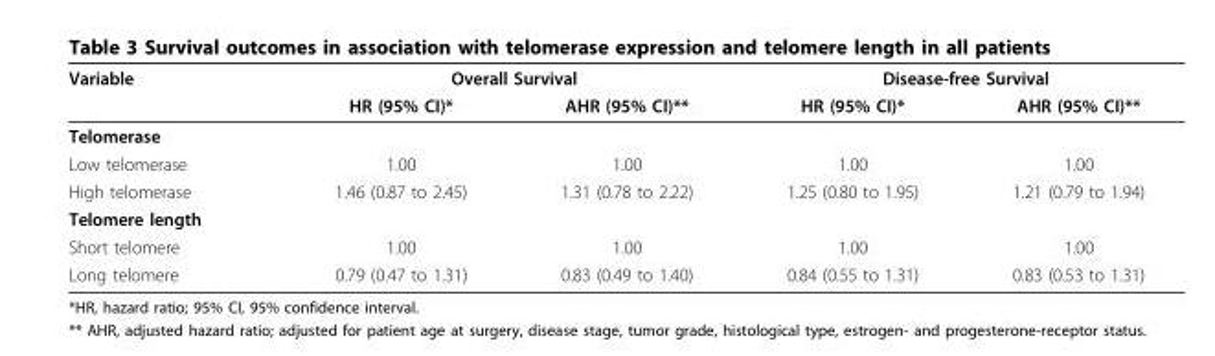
<table><thead><tr><td rowspan="2">Variable</td><td colspan="2">Overall Survival</td><td colspan="2">Disease-free Survival</td></tr><tr><td>HR (95% CI)*</td><td>AHR (95% CI)**</td><td>HR (95% CI)*</td><td>AHR (95% CI)**</td></tr></thead><tbody><tr><td colspan="5">Telomerase</td></tr><tr><td>Low telomerase</td><td>1.00</td><td>1.00</td><td>1.00</td><td>1.00</td></tr><tr><td>High telomerase</td><td>1.46 (0.87 to 2.45)</td><td>1.31 (0.78 to 2.22)</td><td>1.25 (0.80 to 1.95)</td><td>1.21 (0.79 to 1.94)</td></tr><tr><td colspan="5">Telomere length</td></tr><tr><td>Short telomere</td><td>1.00</td><td>1.00</td><td>1.00</td><td>1.00</td></tr><tr><td>Long telomere</td><td>0.79 (0.47 to 1.31)</td><td>0.83 (0.49 to 1.40)</td><td>0.84 (0.55 to 1.31)</td><td>0.83 (0.53 to 1.31)</td></tr></tbody></table>